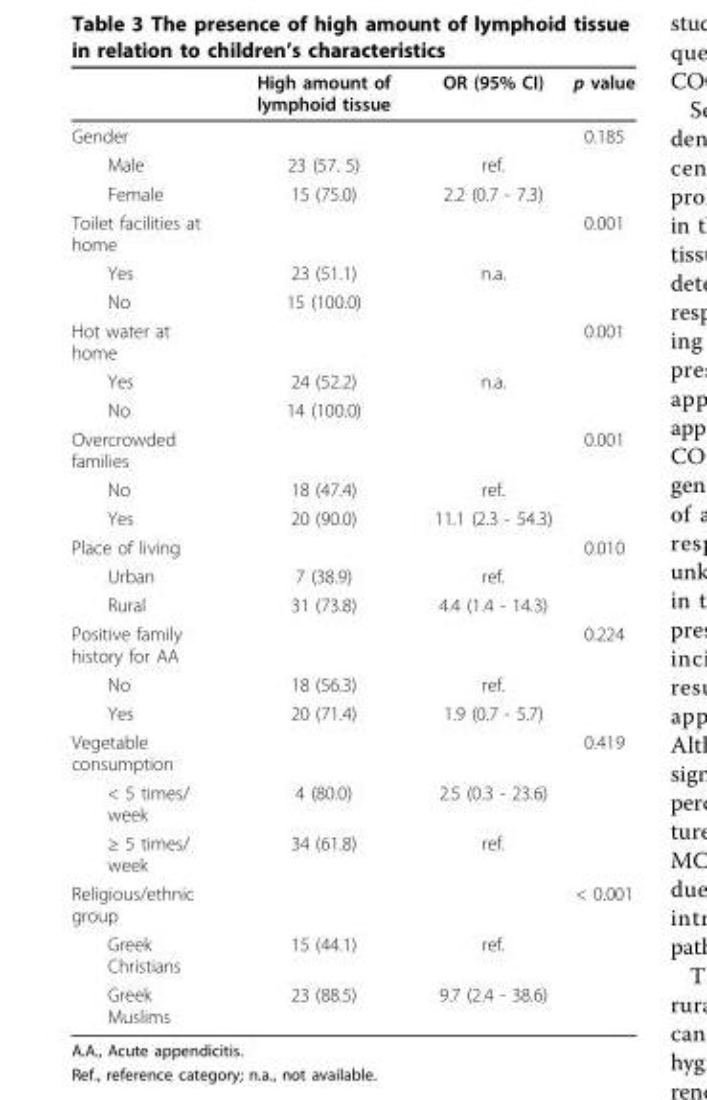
<table><thead><tr><td></td><td>High amount of lymphoid tissue</td><td>OR (95% CI)</td><td>p value</td></tr></thead><tbody><tr><td>Gender</td><td></td><td></td><td>0.185</td></tr><tr><td>Male</td><td>23 (57. 5)</td><td>ref.</td><td></td></tr><tr><td>Female</td><td>15 (75.0)</td><td>2.2 (0.7 - 7.3)</td><td></td></tr><tr><td>Toilet facilities at home</td><td></td><td></td><td>0.001</td></tr><tr><td>Yes</td><td>23 (51.1)</td><td>n.a.</td><td></td></tr><tr><td>No</td><td>15 (100.0)</td><td></td><td></td></tr><tr><td>Hot water at home</td><td></td><td></td><td>0.001</td></tr><tr><td>Yes</td><td>24 (52.2)</td><td>n.a.</td><td></td></tr><tr><td>No</td><td>14 (100.0)</td><td></td><td></td></tr><tr><td>Overcrowded families</td><td></td><td></td><td>0.001</td></tr><tr><td>No</td><td>18 (47.4)</td><td>ref.</td><td></td></tr><tr><td>Yes</td><td>20 (90.0)</td><td>11.1 (2.3 - 54.3)</td><td></td></tr><tr><td>Place of living</td><td></td><td></td><td>0.010</td></tr><tr><td>Urban</td><td>7 (38.9)</td><td>ref.</td><td></td></tr><tr><td>Rural</td><td>31 (73.8)</td><td>4.4 (1.4 - 14.3)</td><td></td></tr><tr><td>Positive family history for AA</td><td></td><td></td><td>0.224</td></tr><tr><td>No</td><td>18 (56.3)</td><td>ref.</td><td></td></tr><tr><td>Yes</td><td>20 (71.4)</td><td>1.9 (0.7 - 5.7)</td><td></td></tr><tr><td>Vegetable consumption</td><td></td><td></td><td>0.419</td></tr><tr><td>&lt; 5 times/ week</td><td>4 (80.0)</td><td>2.5 (0.3 - 23.6)</td><td></td></tr><tr><td>≥ 5 times/ week</td><td>34 (61.8)</td><td>ref.</td><td></td></tr><tr><td>Religious/ethnic group</td><td></td><td></td><td>&lt; 0.001</td></tr><tr><td>Greek Christians</td><td>15 (44.1)</td><td>ref.</td><td></td></tr><tr><td>Greek Muslims</td><td>23 (88.5)</td><td>9.7 (2.4 - 38.6)</td><td></td></tr></tbody></table>